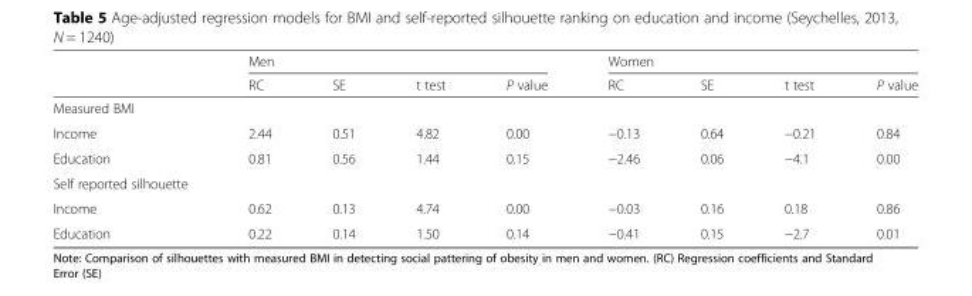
<table><thead><tr><td rowspan="2"></td><td colspan="4">Men</td><td colspan="4">Women</td></tr><tr><td>RC</td><td>SE</td><td>t test</td><td>P value</td><td>RC</td><td>SE</td><td>t test</td><td>P value</td></tr></thead><tbody><tr><td colspan="9">Measured BMI</td></tr><tr><td>Income</td><td>2.44</td><td>0.51</td><td>4.82</td><td>0.00</td><td>−0.13</td><td>0.64</td><td>−0.21</td><td>0.84</td></tr><tr><td>Education</td><td>0.81</td><td>0.56</td><td>1.44</td><td>0.15</td><td>−2.46</td><td>0.06</td><td>−4.1</td><td>0.00</td></tr><tr><td colspan="9">Self reported silhouette</td></tr><tr><td>Income</td><td>0.62</td><td>0.13</td><td>4.74</td><td>0.00</td><td>−0.03</td><td>0.16</td><td>0.18</td><td>0.86</td></tr><tr><td>Education</td><td>0.22</td><td>0.14</td><td>1.50</td><td>0.14</td><td>−0.41</td><td>0.15</td><td>−2.7</td><td>0.01</td></tr></tbody></table>